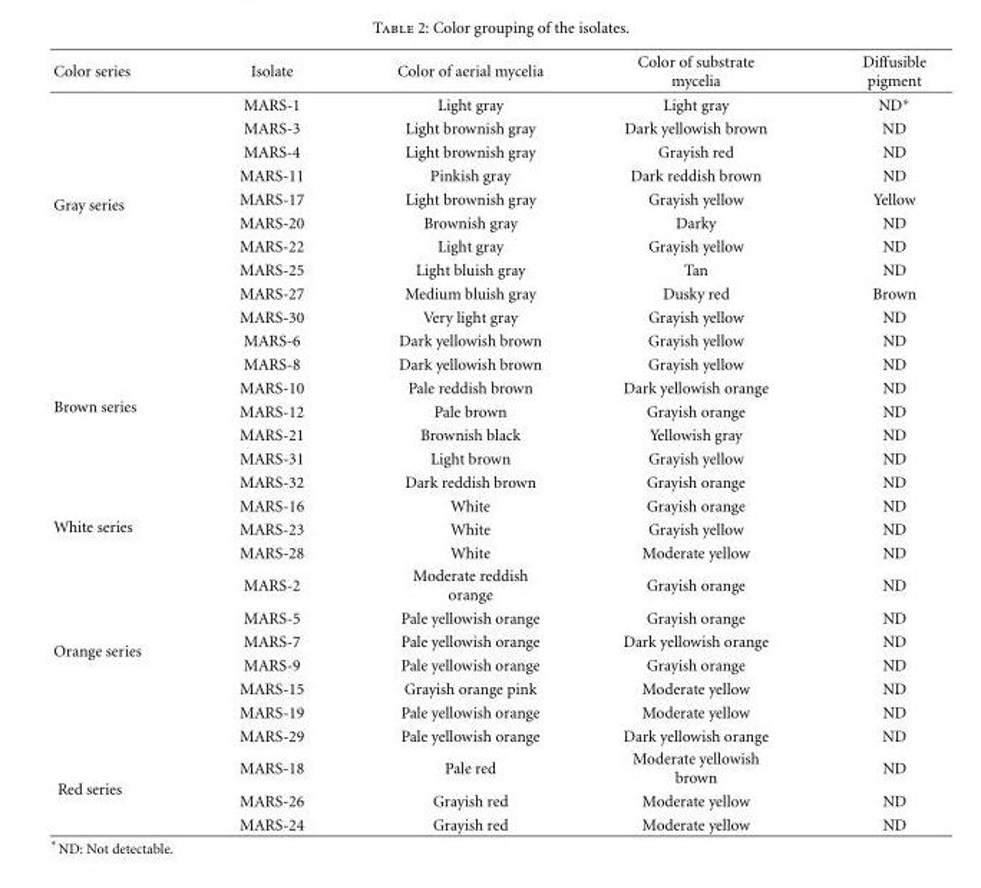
<table><thead><tr><td>Color series</td><td>Isolate</td><td>Color of aerial mycelia</td><td>Color of substrate mycelia</td><td>Diffusible pigment</td></tr></thead><tbody><tr><td rowspan="10">Gray series</td><td>MARS-1</td><td>Light gray</td><td>Light gray</td><td>ND∗</td></tr><tr><td>MARS-3</td><td>Light brownish gray</td><td>Dark yellowish brown</td><td>ND</td></tr><tr><td>MARS-4</td><td>Light brownish gray</td><td>Grayish red</td><td>ND</td></tr><tr><td>MARS-11</td><td>Pinkish gray</td><td>Dark reddish brown</td><td>ND</td></tr><tr><td>MARS-17</td><td>Light brownish gray</td><td>Grayish yellow</td><td>Yellow</td></tr><tr><td>MARS-20</td><td>Brownish gray</td><td>Darky</td><td>ND</td></tr><tr><td>MARS-22</td><td>Light gray</td><td>Grayish yellow</td><td>ND</td></tr><tr><td>MARS-25</td><td>Light bluish gray</td><td>Tan</td><td>ND</td></tr><tr><td>MARS-27</td><td>Medium bluish gray</td><td>Dusky red</td><td>Brown</td></tr><tr><td>MARS-30</td><td>Very light gray</td><td>Grayish yellow</td><td>ND</td></tr><tr><td rowspan="7">Brown series</td><td>MARS-6</td><td>Dark yellowish brown</td><td>Grayish yellow</td><td>ND</td></tr><tr><td>MARS-8</td><td>Dark yellowish brown</td><td>Grayish yellow</td><td>ND</td></tr><tr><td>MARS-10</td><td>Pale reddish brown</td><td>Dark yellowish orange</td><td>ND</td></tr><tr><td>MARS-12</td><td>Pale brown</td><td>Grayish orange</td><td>ND</td></tr><tr><td>MARS-21</td><td>Brownish black</td><td>Yellowish gray</td><td>ND</td></tr><tr><td>MARS-31</td><td>Light brown</td><td>Grayish yellow</td><td>ND</td></tr><tr><td>MARS-32</td><td>Dark reddish brown</td><td>Grayish orange</td><td>ND</td></tr><tr><td rowspan="3">White series</td><td>MARS-16</td><td>White</td><td>Grayish orange</td><td>ND</td></tr><tr><td>MARS-23</td><td>White</td><td>Grayish yellow</td><td>ND</td></tr><tr><td>MARS-28</td><td>White</td><td>Moderate yellow</td><td>ND</td></tr><tr><td rowspan="7">Orange series</td><td>MARS-2</td><td>Moderate reddish orange</td><td>Grayish orange</td><td>ND</td></tr><tr><td>MARS-5</td><td>Pale yellowish orange</td><td>Grayish orange</td><td>ND</td></tr><tr><td>MARS-7</td><td>Pale yellowish orange</td><td>Dark yellowish orange</td><td>ND</td></tr><tr><td>MARS-9</td><td>Pale yellowish orange</td><td>Grayish orange</td><td>ND</td></tr><tr><td>MARS-15</td><td>Grayish orange pink</td><td>Moderate yellow</td><td>ND</td></tr><tr><td>MARS-19</td><td>Pale yellowish orange</td><td>Moderate yellow</td><td>ND</td></tr><tr><td>MARS-29</td><td>Pale yellowish orange</td><td>Dark yellowish orange</td><td>ND</td></tr><tr><td rowspan="3">Red series</td><td>MARS-18</td><td>Pale red</td><td>Moderate yellowish brown</td><td>ND</td></tr><tr><td>MARS-26</td><td>Grayish red</td><td>Moderate yellow</td><td>ND</td></tr><tr><td>MARS-24</td><td>Grayish red</td><td>Moderate yellow</td><td>ND</td></tr></tbody></table>